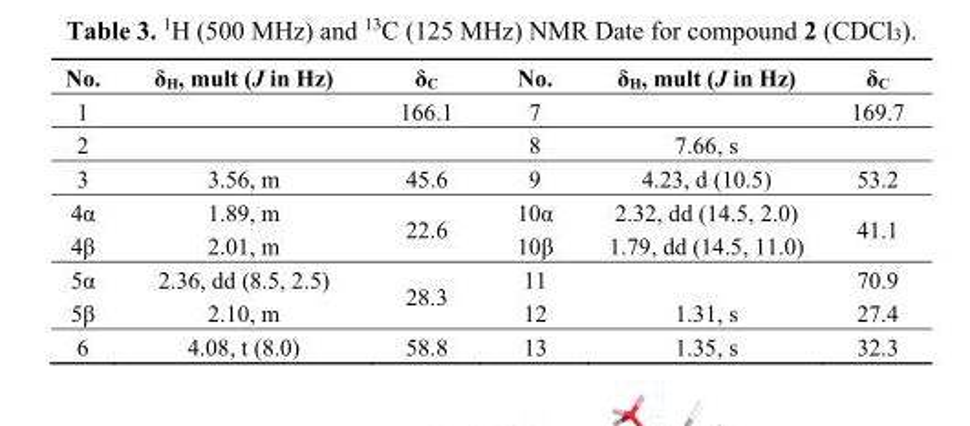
<table><thead><tr><td>No.</td><td>δ<sub>H</sub>, mult (J in Hz)</td><td>δ<sub>C</sub></td><td>No.</td><td>δ<sub>H</sub>, mult (J in Hz)</td><td>δ<sub>C</sub></td></tr></thead><tbody><tr><td>1</td><td></td><td>166.1</td><td>7</td><td></td><td>169.7</td></tr><tr><td>2</td><td></td><td></td><td>8</td><td>7.66, s</td><td></td></tr><tr><td>3</td><td>3.56, m</td><td>45.6</td><td>9</td><td>4.23, d (10.5)</td><td>53.2</td></tr><tr><td>4α</td><td>1.89, m</td><td rowspan="2">22.6</td><td>10α</td><td>2.32, dd (14.5, 2.0)</td><td rowspan="2">41.1</td></tr><tr><td>4β</td><td>2.01, m</td><td>10β</td><td>1.79, dd (14.5, 11.0)</td></tr><tr><td>5α</td><td>2.36, dd (8.5, 2.5)</td><td rowspan="2">28.3</td><td>11</td><td></td><td>70.9</td></tr><tr><td>5β</td><td>2.10, m</td><td>12</td><td>1.31, s</td><td>27.4</td></tr><tr><td>6</td><td>4.08, t (8.0)</td><td>58.8</td><td>13</td><td>1.35, s</td><td>32.3</td></tr></tbody></table>